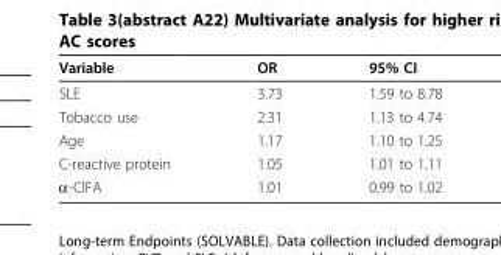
<table><thead><tr><td>Variable</td><td>OR</td><td>95% CI</td></tr></thead><tbody><tr><td>SLE</td><td>3.73</td><td>1.59 to 8.78</td></tr><tr><td>Tobacco use</td><td>2.31</td><td>1.13 to 4.74</td></tr><tr><td>Age</td><td>1.17</td><td>1.10 to 1.25</td></tr><tr><td>C-reactive protein</td><td>1.05</td><td>1.01 to 1.11</td></tr><tr><td>α-ClFA</td><td>1.01</td><td>0.99 to 1.02</td></tr></tbody></table>